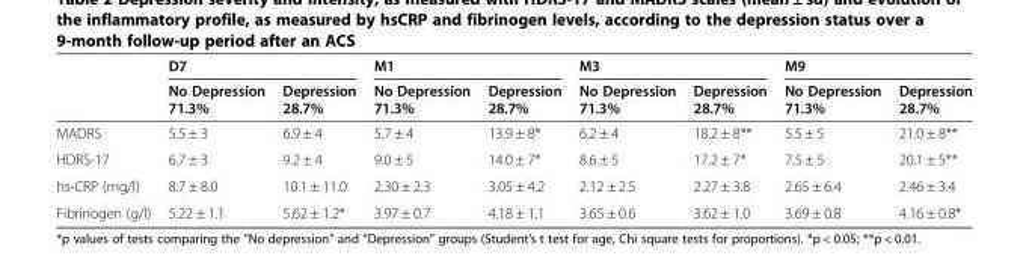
<table><thead><tr><td rowspan="2"></td><td colspan="2">D7</td><td colspan="2">M1</td><td colspan="2">M3</td><td colspan="2">M9</td></tr><tr><td>No Depression 71.3%</td><td>Depression 28.7%</td><td>No Depression 71.3%</td><td>Depression 28.7%</td><td>No Depression 71.3%</td><td>Depression 28.7%</td><td>No Depression 71.3%</td><td>Depression 28.7%</td></tr></thead><tbody><tr><td>MADRS</td><td>5.5 ± 3</td><td>6.9 ± 4</td><td>5.7 ± 4</td><td>13.9 ± 8*</td><td>6.2 ± 4</td><td>18.2 ± 8**</td><td>5.5 ± 5</td><td>21.0 ± 8**</td></tr><tr><td>HDRS-17</td><td>6.7 ± 3</td><td>9.2 ± 4</td><td>9.0 ± 5</td><td>14.0 ± 7*</td><td>8.6 ± 5</td><td>17.2 ± 7*</td><td>7.5 ± 5</td><td>20.1 ± 5**</td></tr><tr><td>hs-CRP (mg/l)</td><td>8.7 ± 8.0</td><td>10.1 ± 11.0</td><td>2.30 ± 2.3</td><td>3.05 ± 4.2</td><td>2.12 ± 2.5</td><td>2.27 ± 3.8</td><td>2.65 ± 6.4</td><td>2.46 ± 3.4</td></tr><tr><td>Fibrinogen (g/l)</td><td>5.22 ± 1.1</td><td>5.62 ± 1.2*</td><td>3.97 ± 0.7</td><td>4.18 ± 1.1</td><td>3.65 ± 0.6</td><td>3.62 ± 1.0</td><td>3.69 ± 0.8</td><td>4.16 ± 0.8*</td></tr></tbody></table>